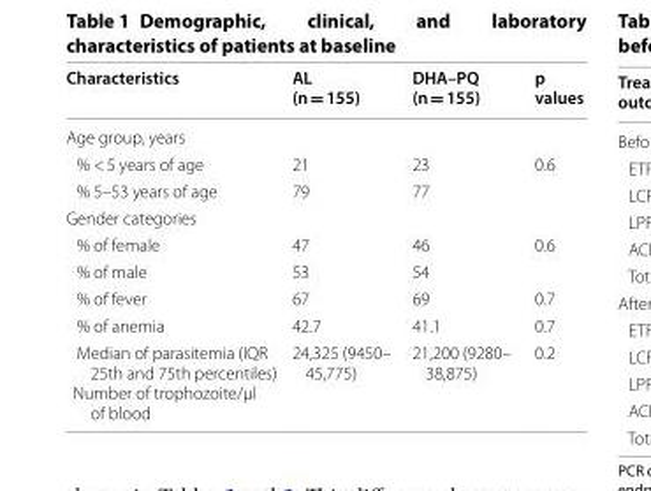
<table><thead><tr><td>Characteristics</td><td>AL (n = 155)</td><td>DHA–PQ (n = 155)</td><td>p values</td></tr></thead><tbody><tr><td colspan="4">Age group, years</td></tr><tr><td>% &lt; 5 years of age</td><td>21</td><td>23</td><td rowspan="2">0.6</td></tr><tr><td>% 5–53 years of age</td><td>79</td><td>77</td></tr><tr><td colspan="4">Gender categories</td></tr><tr><td>% of female</td><td>47</td><td>46</td><td rowspan="2">0.6</td></tr><tr><td>% of male</td><td>53</td><td>54</td></tr><tr><td>% of fever</td><td>67</td><td>69</td><td>0.7</td></tr><tr><td>% of anemia</td><td>42.7</td><td>41.1</td><td>0.7</td></tr><tr><td>Median of parasitemia (IQR 25th and 75th percentiles) Number of trophozoite/μl of blood</td><td>24,325 (9450– 45,775)</td><td>21,200 (9280– 38,875)</td><td>0.2</td></tr></tbody></table>